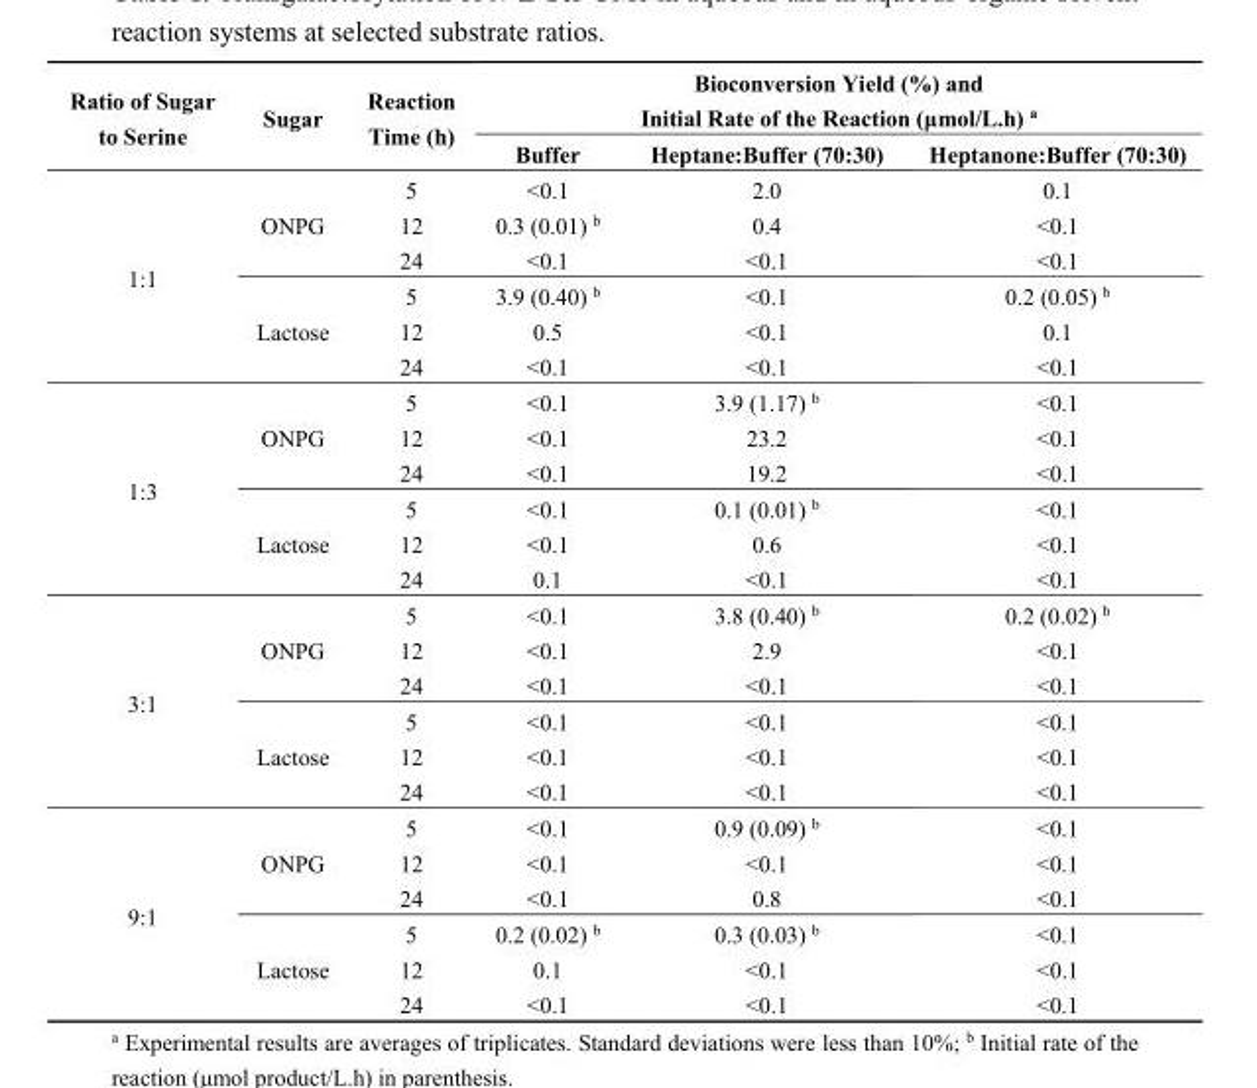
<table><thead><tr><td rowspan="2">Ratio of Sugar to Serine</td><td rowspan="2">Sugar</td><td rowspan="2">Reaction Time (h)</td><td colspan="3">Bioconversion Yield (%) and Initial Rate of the Reaction (μmol/L.h) <sup>a</sup></td></tr><tr><td>Buffer</td><td>Heptane:Buffer (70:30)</td><td>Heptanone:Buffer (70:30)</td></tr></thead><tbody><tr><td rowspan="6">1:1</td><td rowspan="3">ONPG</td><td>5</td><td>&lt;0.1</td><td>2.0</td><td>0.1</td></tr><tr><td>12</td><td>0.3 (0.01) <sup>b</sup></td><td>0.4</td><td>&lt;0.1</td></tr><tr><td>24</td><td>&lt;0.1</td><td>&lt;0.1</td><td>&lt;0.1</td></tr><tr><td rowspan="3">Lactose</td><td>5</td><td>3.9 (0.40) <sup>b</sup></td><td>&lt;0.1</td><td>0.2 (0.05) <sup>b</sup></td></tr><tr><td>12</td><td>0.5</td><td>&lt;0.1</td><td>0.1</td></tr><tr><td>24</td><td>&lt;0.1</td><td>&lt;0.1</td><td>&lt;0.1</td></tr><tr><td rowspan="6">1:3</td><td rowspan="3">ONPG</td><td>5</td><td>&lt;0.1</td><td>3.9 (1.17) <sup>b</sup></td><td>&lt;0.1</td></tr><tr><td>12</td><td>&lt;0.1</td><td>23.2</td><td>&lt;0.1</td></tr><tr><td>24</td><td>&lt;0.1</td><td>19.2</td><td>&lt;0.1</td></tr><tr><td rowspan="3">Lactose</td><td>5</td><td>&lt;0.1</td><td>0.1 (0.01) <sup>b</sup></td><td>&lt;0.1</td></tr><tr><td>12</td><td>&lt;0.1</td><td>0.6</td><td>&lt;0.1</td></tr><tr><td>24</td><td>0.1</td><td>&lt;0.1</td><td>&lt;0.1</td></tr><tr><td rowspan="6">3:1</td><td rowspan="3">ONPG</td><td>5</td><td>&lt;0.1</td><td>3.8 (0.40) <sup>b</sup></td><td>0.2 (0.02) <sup>b</sup></td></tr><tr><td>12</td><td>&lt;0.1</td><td>2.9</td><td>&lt;0.1</td></tr><tr><td>24</td><td>&lt;0.1</td><td>&lt;0.1</td><td>&lt;0.1</td></tr><tr><td rowspan="3">Lactose</td><td>5</td><td>&lt;0.1</td><td>&lt;0.1</td><td>&lt;0.1</td></tr><tr><td>12</td><td>&lt;0.1</td><td>&lt;0.1</td><td>&lt;0.1</td></tr><tr><td>24</td><td>&lt;0.1</td><td>&lt;0.1</td><td>&lt;0.1</td></tr><tr><td rowspan="6">9:1</td><td rowspan="3">ONPG</td><td>5</td><td>&lt;0.1</td><td>0.9 (0.09) <sup>b</sup></td><td>&lt;0.1</td></tr><tr><td>12</td><td>&lt;0.1</td><td>&lt;0.1</td><td>&lt;0.1</td></tr><tr><td>24</td><td>&lt;0.1</td><td>0.8</td><td>&lt;0.1</td></tr><tr><td rowspan="3">Lactose</td><td>5</td><td>0.2 (0.02) <sup>b</sup></td><td>0.3 (0.03) <sup>b</sup></td><td>&lt;0.1</td></tr><tr><td>12</td><td>0.1</td><td>&lt;0.1</td><td>&lt;0.1</td></tr><tr><td>24</td><td>&lt;0.1</td><td>&lt;0.1</td><td>&lt;0.1</td></tr></tbody></table>